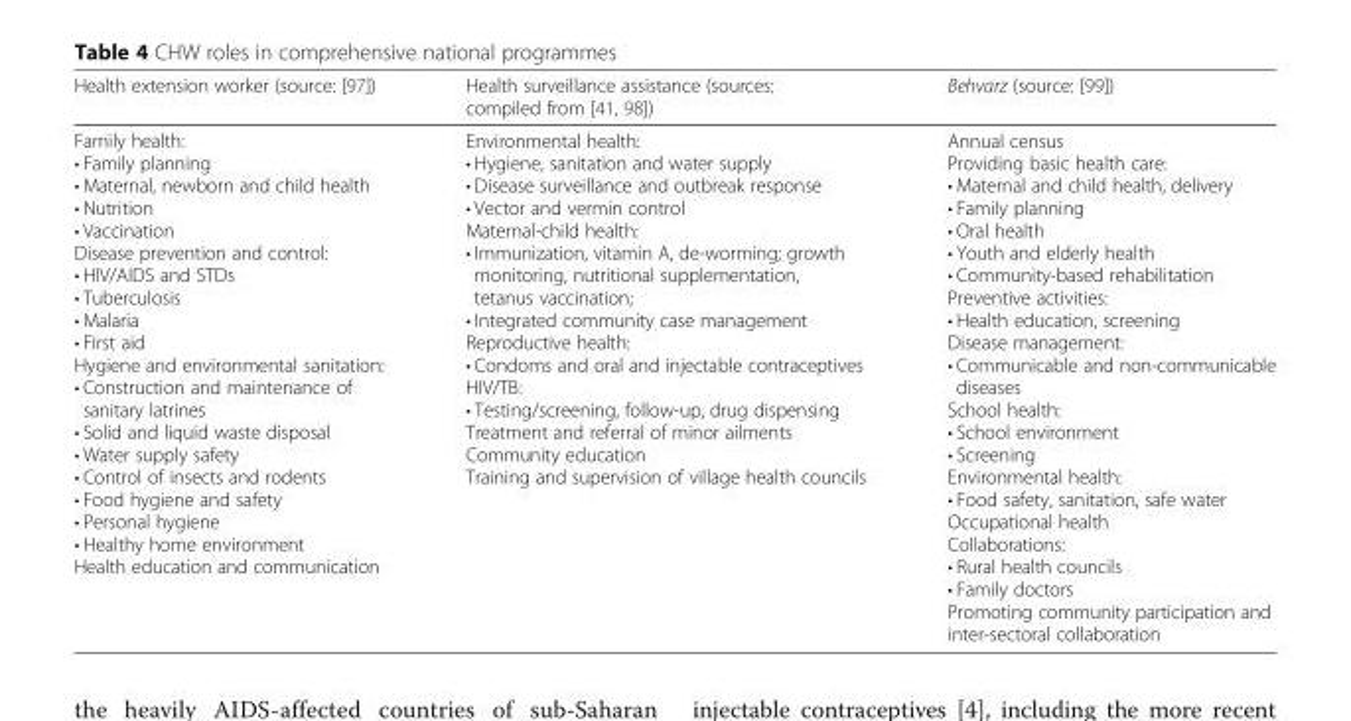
<table><thead><tr><td>Health extension worker (source: [97])</td><td>Health surveillance assistance (sources: compiled from [41, 98])</td><td>Behvarz (source: [99])</td></tr></thead><tbody><tr><td>Family health: • Family planning • Maternal, newborn and child health • Nutrition • Vaccination Disease prevention and control: • HIV/AIDS and STDs • Tuberculosis • Malaria • First aid Hygiene and environmental sanitation: • Construction and maintenance of sanitary latrines • Solid and liquid waste disposal • Water supply safety • Control of insects and rodents • Food hygiene and safety • Personal hygiene • Healthy home environment Health education and communication</td><td>Environmental health: • Hygiene, sanitation and water supply • Disease surveillance and outbreak response • Vector and vermin control Maternal-child health: • Immunization, vitamin A, de-worming; growth monitoring, nutritional supplementation, tetanus vaccination; • Integrated community case management Reproductive health: • Condoms and oral and injectable contraceptives HIV/TB: • Testing/screening, follow-up, drug dispensing Treatment and referral of minor ailments Community education Training and supervision of village health councils</td><td>Annual census Providing basic health care: • Maternal and child health, delivery • Family planning • Oral health • Youth and elderly health • Community-based rehabilitation Preventive activities: • Health education, screening Disease management: • Communicable and non-communicable diseases School health: • School environment • Screening Environmental health: • Food safety, sanitation, safe water Occupational health Collaborations: • Rural health councils • Family doctors Promoting community participation and inter-sectoral collaboration</td></tr></tbody></table>